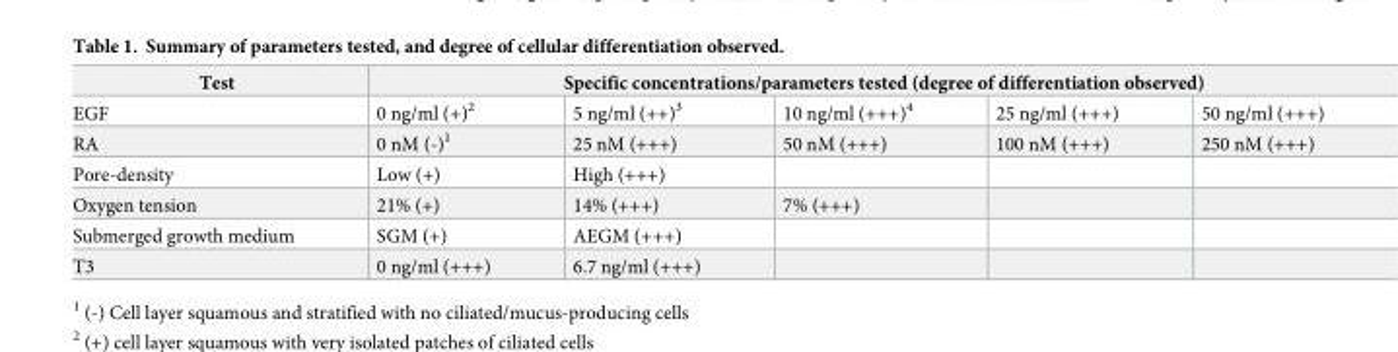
<table><thead><tr><td rowspan="2">Test EGF</td><td colspan="5">Specific concentrations/parameters tested (degree of differentiation observed)</td></tr><tr><td>0 ng/ml (+)<sup>2</sup></td><td>5 ng/ml (++)<sup>3</sup></td><td>10 ng/ml (+++)<sup>4</sup></td><td>25 ng/ml (+++)</td><td>50 ng/ml (+++)</td></tr></thead><tbody><tr><td>RA</td><td>0 nM (-)<sup>1</sup></td><td>25 nM (+++)</td><td>50 nM (+++)</td><td>100 nM (+++)</td><td>250 nM (+++)</td></tr><tr><td>Pore-density</td><td>Low (+)</td><td>High (+++)</td><td></td><td></td><td></td></tr><tr><td>Oxygen tension</td><td>21% (+)</td><td>14% (+++)</td><td>7% (+++)</td><td></td><td></td></tr><tr><td>Submerged growth medium</td><td>SGM (+)</td><td>AEGM (+++)</td><td></td><td></td><td></td></tr><tr><td>T3</td><td>0 ng/ml (+++)</td><td>6.7 ng/ml (+++)</td><td></td><td></td><td></td></tr></tbody></table>